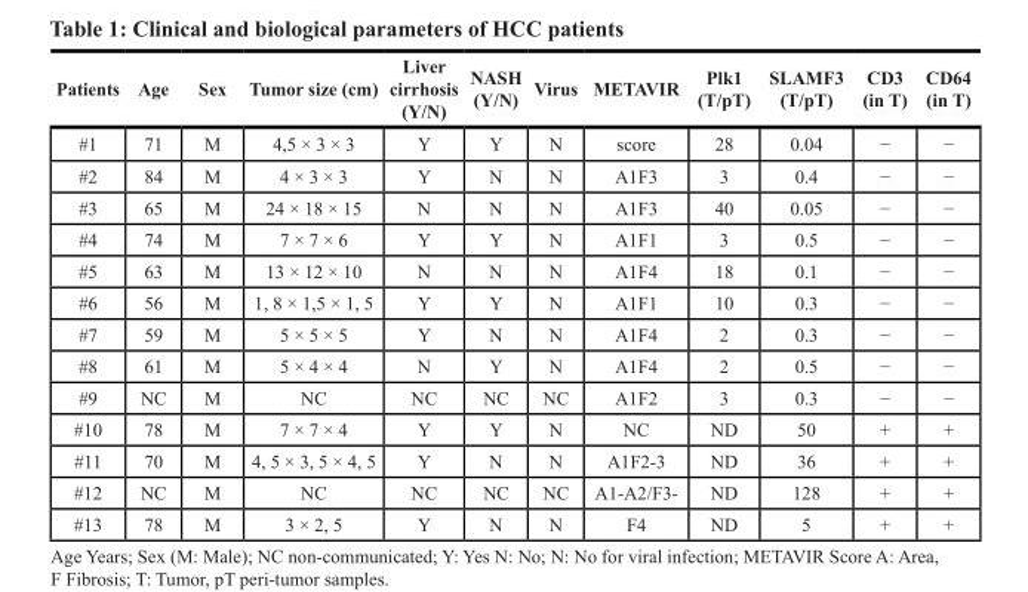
<table><thead><tr><td>Patients</td><td>Age</td><td>Sex</td><td>Tumor size (cm)</td><td>Liver cirrhosis (Y/N)</td><td>NASH (Y/N)</td><td>Virus</td><td>METAVIR</td><td>Plk1 (T/pT)</td><td>SLAMF3 (T/pT)</td><td>CD3 (in T)</td><td>CD64 (in T)</td></tr></thead><tbody><tr><td>#1</td><td>71</td><td>M</td><td>4,5 × 3 × 3</td><td>Y</td><td>Y</td><td>N</td><td>score</td><td>28</td><td>0.04</td><td>−</td><td>−</td></tr><tr><td>#2</td><td>84</td><td>M</td><td>4 × 3 × 3</td><td>Y</td><td>N</td><td>N</td><td>A1F3</td><td>3</td><td>0.4</td><td>−</td><td>−</td></tr><tr><td>#3</td><td>65</td><td>M</td><td>24 × 18 × 15</td><td>N</td><td>N</td><td>N</td><td>A1F3</td><td>40</td><td>0.05</td><td>−</td><td>−</td></tr><tr><td>#4</td><td>74</td><td>M</td><td>7 × 7 × 6</td><td>Y</td><td>Y</td><td>N</td><td>A1F1</td><td>3</td><td>0.5</td><td>−</td><td>−</td></tr><tr><td>#5</td><td>63</td><td>M</td><td>13 × 12 × 10</td><td>N</td><td>N</td><td>N</td><td>A1F4</td><td>18</td><td>0.1</td><td>−</td><td>−</td></tr><tr><td>#6</td><td>56</td><td>M</td><td>1, 8 × 1,5 × 1, 5</td><td>Y</td><td>Y</td><td>N</td><td>A1F1</td><td>10</td><td>0.3</td><td>−</td><td>−</td></tr><tr><td>#7</td><td>59</td><td>M</td><td>5 × 5 × 5</td><td>Y</td><td>N</td><td>N</td><td>A1F4</td><td>2</td><td>0.3</td><td>−</td><td>−</td></tr><tr><td>#8</td><td>61</td><td>M</td><td>5 × 4 × 4</td><td>N</td><td>Y</td><td>N</td><td>A1F4</td><td>2</td><td>0.5</td><td>−</td><td>−</td></tr><tr><td>#9</td><td>NC</td><td>M</td><td>NC</td><td>NC</td><td>NC</td><td>NC</td><td>A1F2</td><td>3</td><td>0.3</td><td>−</td><td>−</td></tr><tr><td>#10</td><td>78</td><td>M</td><td>7 × 7 × 4</td><td>Y</td><td>Y</td><td>N</td><td>NC</td><td>ND</td><td>50</td><td>+</td><td>+</td></tr><tr><td>#11</td><td>70</td><td>M</td><td>4, 5 × 3, 5 × 4, 5</td><td>Y</td><td>N</td><td>N</td><td>A1F2-3</td><td>ND</td><td>36</td><td>+</td><td>+</td></tr><tr><td>#12</td><td>NC</td><td>M</td><td>NC</td><td>NC</td><td>NC</td><td>NC</td><td>A1-A2/F3-</td><td>ND</td><td>128</td><td>+</td><td>+</td></tr><tr><td>#13</td><td>78</td><td>M</td><td>3 × 2, 5</td><td>Y</td><td>N</td><td>N</td><td>F4</td><td>ND</td><td>5</td><td>+</td><td>+</td></tr></tbody></table>